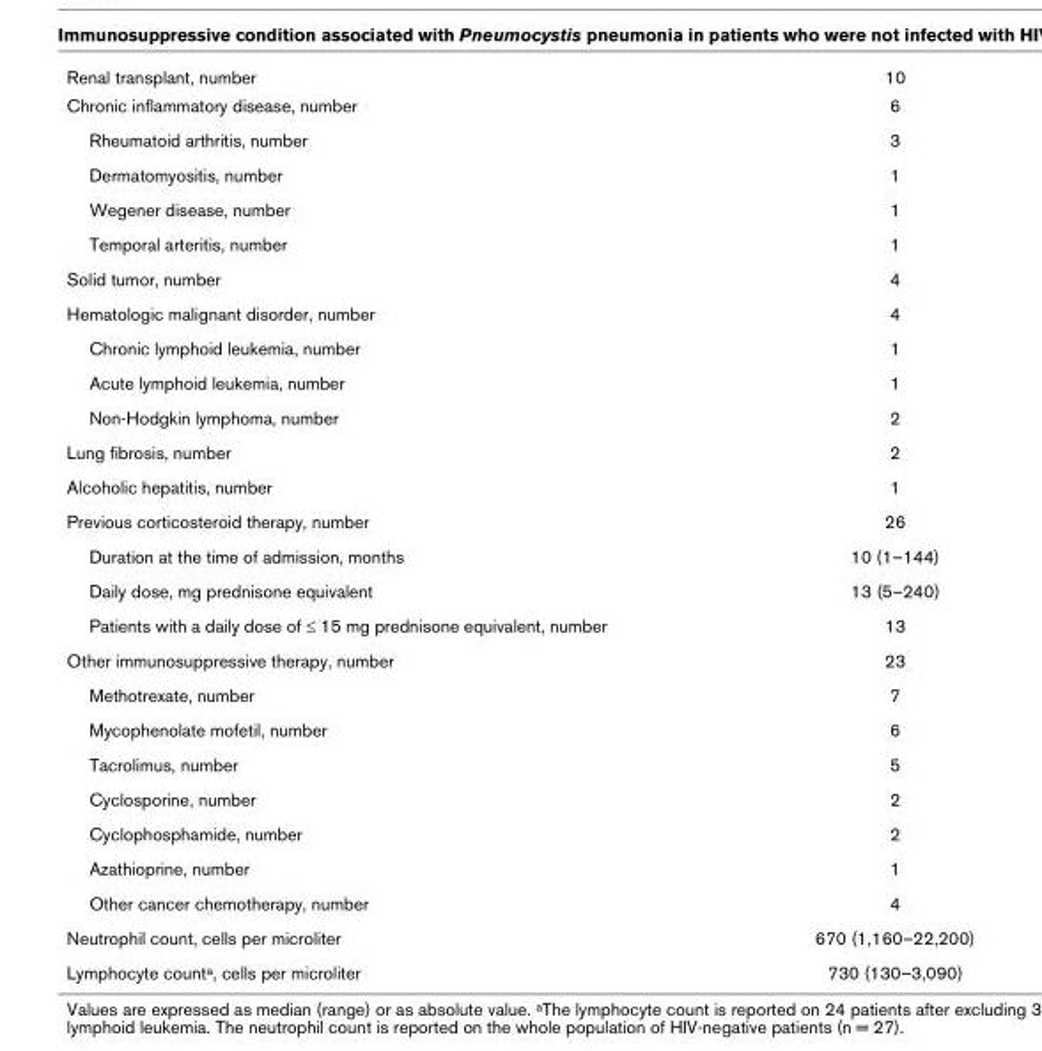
<table><tbody><tr><td>Renal transplant, number</td><td>10</td></tr><tr><td>Chronic inflammatory disease, number</td><td>6</td></tr><tr><td>Rheumatoid arthritis, number</td><td>3</td></tr><tr><td>Dermatomyositis, number</td><td>1</td></tr><tr><td>Wegener disease, number</td><td>1</td></tr><tr><td>Temporal arteritis, number</td><td>1</td></tr><tr><td>Solid tumor, number</td><td>4</td></tr><tr><td>Hematologic malignant disorder, number</td><td>4</td></tr><tr><td>Chronic lymphoid leukemia, number</td><td>1</td></tr><tr><td>Acute lymphoid leukemia, number</td><td>1</td></tr><tr><td>Non-Hodgkin lymphoma, number</td><td>2</td></tr><tr><td>Lung fibrosis, number</td><td>2</td></tr><tr><td>Alcoholic hepatitis, number</td><td>1</td></tr><tr><td>Previous corticosteroid therapy, number</td><td>26</td></tr><tr><td>Duration at the time of admission, months</td><td>10 (1–144)</td></tr><tr><td>Daily dose, mg prednisone equivalent</td><td>13 (5–240)</td></tr><tr><td>Patients with a daily dose of ≤ 15 mg prednisone equivalent, number</td><td>13</td></tr><tr><td>Other immunosuppressive therapy, number</td><td>23</td></tr><tr><td>Methotrexate, number</td><td>7</td></tr><tr><td>Mycophenolate mofetil, number</td><td>6</td></tr><tr><td>Tacrolimus, number</td><td>5</td></tr><tr><td>Cyclosporine, number</td><td>2</td></tr><tr><td>Cyclophosphamide, number</td><td>2</td></tr><tr><td>Azathioprine, number</td><td>1</td></tr><tr><td>Other cancer chemotherapy, number</td><td>4</td></tr><tr><td>Neutrophil count, cells per microliter</td><td>670 (1,160–22,200)</td></tr><tr><td>Lymphocyte count<sup>a</sup>, cells per microliter</td><td>730 (130–3,090)</td></tr></tbody></table>